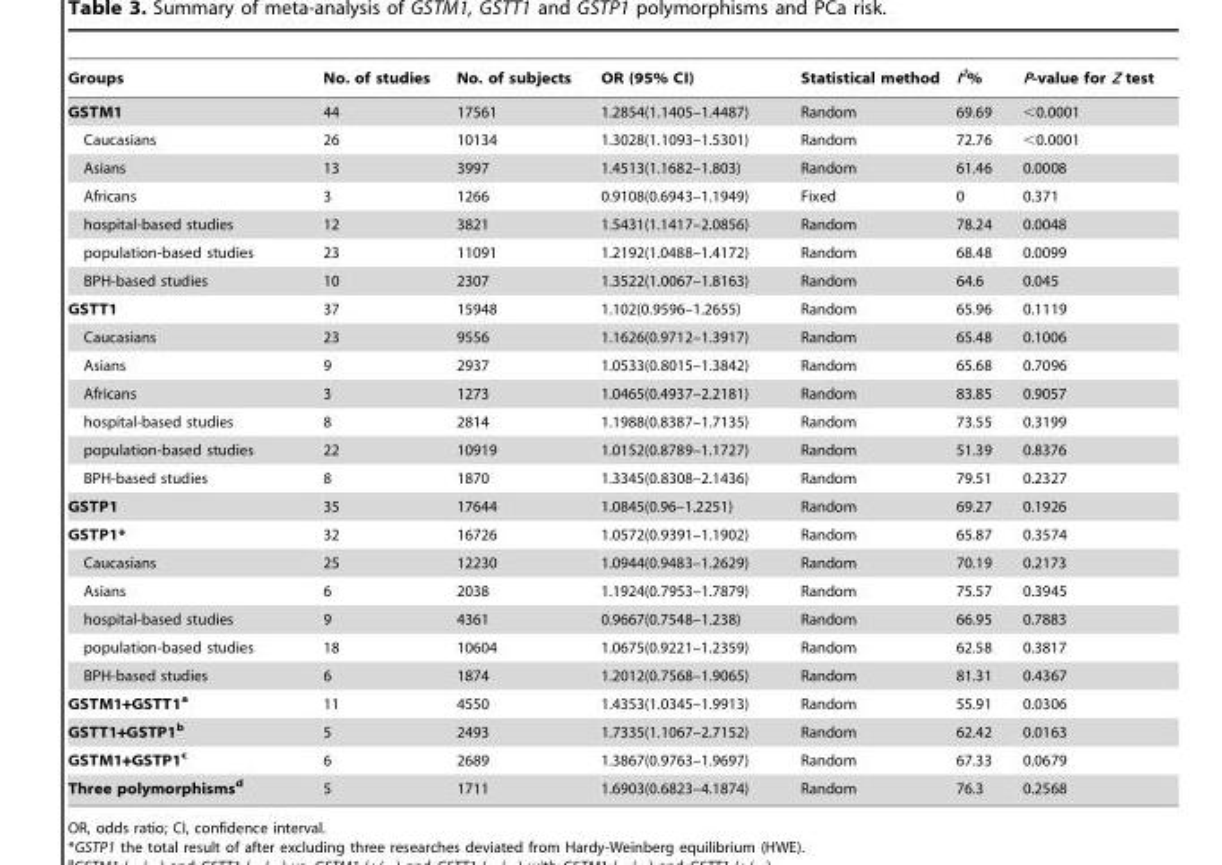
<table><thead><tr><td>Groups</td><td>No. of studies</td><td>No. of subjects</td><td>OR (95% CI)</td><td>Statistical method</td><td>I<sup>2</sup>%</td><td>P-value for Z test</td></tr></thead><tbody><tr><td>GSTM1</td><td>44</td><td>17561</td><td>1.2854(1.1405–1.4487)</td><td>Random</td><td>69.69</td><td>&lt;0.0001</td></tr><tr><td>Caucasians</td><td>26</td><td>10134</td><td>1.3028(1.1093–1.5301)</td><td>Random</td><td>72.76</td><td>&lt;0.0001</td></tr><tr><td>Asians</td><td>13</td><td>3997</td><td>1.4513(1.1682–1.803)</td><td>Random</td><td>61.46</td><td>0.0008</td></tr><tr><td>Africans</td><td>3</td><td>1266</td><td>0.9108(0.6943–1.1949)</td><td>Fixed</td><td>0</td><td>0.371</td></tr><tr><td>hospital-based studies</td><td>12</td><td>3821</td><td>1.5431(1.1417–2.0856)</td><td>Random</td><td>78.24</td><td>0.0048</td></tr><tr><td>population-based studies</td><td>23</td><td>11091</td><td>1.2192(1.0488–1.4172)</td><td>Random</td><td>68.48</td><td>0.0099</td></tr><tr><td>BPH-based studies</td><td>10</td><td>2307</td><td>1.3522(1.0067–1.8163)</td><td>Random</td><td>64.6</td><td>0.045</td></tr><tr><td>GSTT1</td><td>37</td><td>15948</td><td>1.102(0.9596–1.2655)</td><td>Random</td><td>65.96</td><td>0.1119</td></tr><tr><td>Caucasians</td><td>23</td><td>9556</td><td>1.1626(0.9712–1.3917)</td><td>Random</td><td>65.48</td><td>0.1006</td></tr><tr><td>Asians</td><td>9</td><td>2937</td><td>1.0533(0.8015–1.3842)</td><td>Random</td><td>65.68</td><td>0.7096</td></tr><tr><td>Africans</td><td>3</td><td>1273</td><td>1.0465(0.4937–2.2181)</td><td>Random</td><td>83.85</td><td>0.9057</td></tr><tr><td>hospital-based studies</td><td>8</td><td>2814</td><td>1.1988(0.8387–1.7135)</td><td>Random</td><td>73.55</td><td>0.3199</td></tr><tr><td>population-based studies</td><td>22</td><td>10919</td><td>1.0152(0.8789–1.1727)</td><td>Random</td><td>51.39</td><td>0.8376</td></tr><tr><td>BPH-based studies</td><td>8</td><td>1870</td><td>1.3345(0.8308–2.1436)</td><td>Random</td><td>79.51</td><td>0.2327</td></tr><tr><td>GSTP1</td><td>35</td><td>17644</td><td>1.0845(0.96–1.2251)</td><td>Random</td><td>69.27</td><td>0.1926</td></tr><tr><td>GSTP1*</td><td>32</td><td>16726</td><td>1.0572(0.9391–1.1902)</td><td>Random</td><td>65.87</td><td>0.3574</td></tr><tr><td>Caucasians</td><td>25</td><td>12230</td><td>1.0944(0.9483–1.2629)</td><td>Random</td><td>70.19</td><td>0.2173</td></tr><tr><td>Asians</td><td>6</td><td>2038</td><td>1.1924(0.7953–1.7879)</td><td>Random</td><td>75.57</td><td>0.3945</td></tr><tr><td>hospital-based studies</td><td>9</td><td>4361</td><td>0.9667(0.7548–1.238)</td><td>Random</td><td>66.95</td><td>0.7883</td></tr><tr><td>population-based studies</td><td>18</td><td>10604</td><td>1.0675(0.9221–1.2359)</td><td>Random</td><td>62.58</td><td>0.3817</td></tr><tr><td>BPH-based studies</td><td>6</td><td>1874</td><td>1.2012(0.7568–1.9065)</td><td>Random</td><td>81.31</td><td>0.4367</td></tr><tr><td>GSTM1+GSTT1a</td><td>11</td><td>4550</td><td>1.4353(1.0345–1.9913)</td><td>Random</td><td>55.91</td><td>0.0306</td></tr><tr><td>GSTT1+GSTP1b</td><td>5</td><td>2493</td><td>1.7335(1.1067–2.7152)</td><td>Random</td><td>62.42</td><td>0.0163</td></tr><tr><td>GSTM1+GSTP1c</td><td>6</td><td>2689</td><td>1.3867(0.9763–1.9697)</td><td>Random</td><td>67.33</td><td>0.0679</td></tr><tr><td>Three polymorphismsd</td><td>5</td><td>1711</td><td>1.6903(0.6823–4.1874)</td><td>Random</td><td>76.3</td><td>0.2568</td></tr></tbody></table>